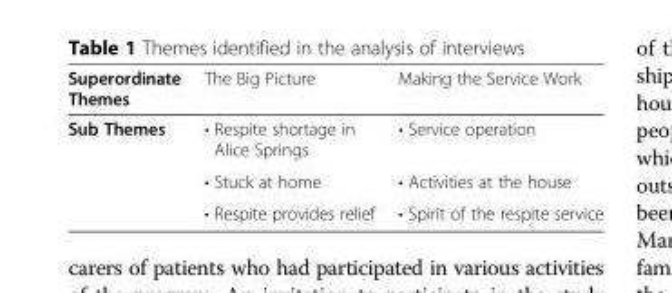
<table><tbody><tr><td>Superordinate Themes</td><td>The Big Picture</td><td>Making the Service Work</td></tr><tr><td rowspan="3">Sub Themes</td><td>• Respite shortage in Alice Springs</td><td>• Service operation</td></tr><tr><td>• Stuck at home</td><td>• Activities at the house</td></tr><tr><td>• Respite provides relief</td><td>• Spirit of the respite service</td></tr></tbody></table>